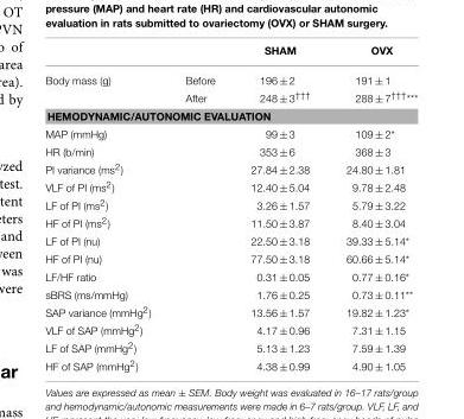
<table><thead><tr><td></td><td></td><td>SHAM</td><td>OVX</td></tr></thead><tbody><tr><td>Body mass (g)</td><td>Before After</td><td>196 ± 2 248 ± 3<sup>†††</sup></td><td>191 ± 1 288 ± 7<sup>†††***</sup></td></tr><tr><td colspan="4">HEMODYNAMIC/AUTONOMIC EVALUATION</td></tr><tr><td>MAP (mmHg)</td><td></td><td>99 ± 3</td><td>109 ± 2*</td></tr><tr><td>HR (b/min)</td><td></td><td>353 ± 6</td><td>368 ± 3</td></tr><tr><td>PI variance (ms<sup>2</sup>)</td><td></td><td>27.84 ± 2.38</td><td>24.80 ± 1.81</td></tr><tr><td>VLF of PI (ms<sup>2</sup>)</td><td></td><td>12.40 ± 5.04</td><td>9.78 ± 2.48</td></tr><tr><td>LF of PI (ms<sup>2</sup>)</td><td></td><td>3.26 ± 1.57</td><td>5.79 ± 3.22</td></tr><tr><td>HF of PI (ms<sup>2</sup>)</td><td></td><td>11.50 ± 3.87</td><td>8.40 ± 3.04</td></tr><tr><td>LF of PI (nu)</td><td></td><td>22.50 ± 3.18</td><td>39.33 ± 5.14*</td></tr><tr><td>HF of PI (nu)</td><td></td><td>77.50 ± 3.18</td><td>60.66 ± 5.14*</td></tr><tr><td>LF/HF ratio</td><td></td><td>0.31 ± 0.05</td><td>0.77 ± 0.16*</td></tr><tr><td>sBRS (ms/mmHg)</td><td></td><td>1.76 ± 0.25</td><td>0.73 ± 0.11**</td></tr><tr><td>SAP variance (mmHg<sup>2</sup>)</td><td></td><td>13.56 ± 1.57</td><td>19.82 ± 1.23*</td></tr><tr><td>VLF of SAP (mmHg<sup>2</sup>)</td><td></td><td>4.17 ± 0.96</td><td>7.31 ± 1.15</td></tr><tr><td>LF of SAP (mmHg<sup>2</sup>)</td><td></td><td>5.13 ± 1.23</td><td>7.59 ± 1.39</td></tr><tr><td>HF of SAP (mmHg<sup>2</sup>)</td><td></td><td>4.38 ± 0.99</td><td>4.90 ± 1.05</td></tr></tbody></table>